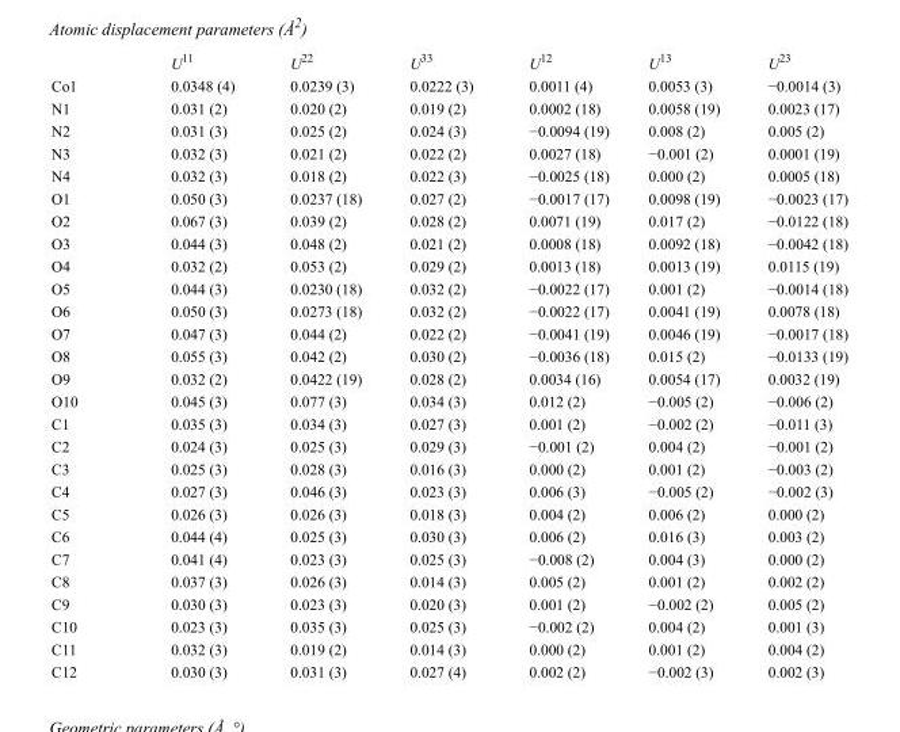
<table><thead><tr><td></td><td>U<sup>11</sup></td><td>U<sup>22</sup></td><td>U<sup>33</sup></td><td>U<sup>12</sup></td><td>U<sup>13</sup></td><td>U<sup>23</sup></td></tr></thead><tbody><tr><td>Co1</td><td>0.0348 (4)</td><td>0.0239 (3)</td><td>0.0222 (3)</td><td>0.0011 (4)</td><td>0.0053 (3)</td><td>−0.0014 (3)</td></tr><tr><td>N1</td><td>0.031 (2)</td><td>0.020 (2)</td><td>0.019 (2)</td><td>0.0002 (18)</td><td>0.0058 (19)</td><td>0.0023 (17)</td></tr><tr><td>N2</td><td>0.031 (3)</td><td>0.025 (2)</td><td>0.024 (3)</td><td>−0.0094 (19)</td><td>0.008 (2)</td><td>0.005 (2)</td></tr><tr><td>N3</td><td>0.032 (3)</td><td>0.021 (2)</td><td>0.022 (2)</td><td>0.0027 (18)</td><td>−0.001 (2)</td><td>0.0001 (19)</td></tr><tr><td>N4</td><td>0.032 (3)</td><td>0.018 (2)</td><td>0.022 (3)</td><td>−0.0025 (18)</td><td>0.000 (2)</td><td>0.0005 (18)</td></tr><tr><td>O1</td><td>0.050 (3)</td><td>0.0237 (18)</td><td>0.027 (2)</td><td>−0.0017 (17)</td><td>0.0098 (19)</td><td>−0.0023 (17)</td></tr><tr><td>O2</td><td>0.067 (3)</td><td>0.039 (2)</td><td>0.028 (2)</td><td>0.0071 (19)</td><td>0.017 (2)</td><td>−0.0122 (18)</td></tr><tr><td>O3</td><td>0.044 (3)</td><td>0.048 (2)</td><td>0.021 (2)</td><td>0.0008 (18)</td><td>0.0092 (18)</td><td>−0.0042 (18)</td></tr><tr><td>O4</td><td>0.032 (2)</td><td>0.053 (2)</td><td>0.029 (2)</td><td>0.0013 (18)</td><td>0.0013 (19)</td><td>0.0115 (19)</td></tr><tr><td>O5</td><td>0.044 (3)</td><td>0.0230 (18)</td><td>0.032 (2)</td><td>−0.0022 (17)</td><td>0.001 (2)</td><td>−0.0014 (18)</td></tr><tr><td>O6</td><td>0.050 (3)</td><td>0.0273 (18)</td><td>0.032 (2)</td><td>−0.0022 (17)</td><td>0.0041 (19)</td><td>0.0078 (18)</td></tr><tr><td>O7</td><td>0.047 (3)</td><td>0.044 (2)</td><td>0.022 (2)</td><td>−0.0041 (19)</td><td>0.0046 (19)</td><td>−0.0017 (18)</td></tr><tr><td>O8</td><td>0.055 (3)</td><td>0.042 (2)</td><td>0.030 (2)</td><td>−0.0036 (18)</td><td>0.015 (2)</td><td>−0.0133 (19)</td></tr><tr><td>O9</td><td>0.032 (2)</td><td>0.0422 (19)</td><td>0.028 (2)</td><td>0.0034 (16)</td><td>0.0054 (17)</td><td>0.0032 (19)</td></tr><tr><td>O10</td><td>0.045 (3)</td><td>0.077 (3)</td><td>0.034 (3)</td><td>0.012 (2)</td><td>−0.005 (2)</td><td>−0.006 (2)</td></tr><tr><td>C1</td><td>0.035 (3)</td><td>0.034 (3)</td><td>0.027 (3)</td><td>0.001 (2)</td><td>−0.002 (2)</td><td>−0.011 (3)</td></tr><tr><td>C2</td><td>0.024 (3)</td><td>0.025 (3)</td><td>0.029 (3)</td><td>−0.001 (2)</td><td>0.004 (2)</td><td>−0.001 (2)</td></tr><tr><td>C3</td><td>0.025 (3)</td><td>0.028 (3)</td><td>0.016 (3)</td><td>0.000 (2)</td><td>0.001 (2)</td><td>−0.003 (2)</td></tr><tr><td>C4</td><td>0.027 (3)</td><td>0.046 (3)</td><td>0.023 (3)</td><td>0.006 (3)</td><td>−0.005 (2)</td><td>−0.002 (3)</td></tr><tr><td>C5</td><td>0.026 (3)</td><td>0.026 (3)</td><td>0.018 (3)</td><td>0.004 (2)</td><td>0.006 (2)</td><td>0.000 (2)</td></tr><tr><td>C6</td><td>0.044 (4)</td><td>0.025 (3)</td><td>0.030 (3)</td><td>0.006 (2)</td><td>0.016 (3)</td><td>0.003 (2)</td></tr><tr><td>C7</td><td>0.041 (4)</td><td>0.023 (3)</td><td>0.025 (3)</td><td>−0.008 (2)</td><td>0.004 (3)</td><td>0.000 (2)</td></tr><tr><td>C8</td><td>0.037 (3)</td><td>0.026 (3)</td><td>0.014 (3)</td><td>0.005 (2)</td><td>0.001 (2)</td><td>0.002 (2)</td></tr><tr><td>C9</td><td>0.030 (3)</td><td>0.023 (3)</td><td>0.020 (3)</td><td>0.001 (2)</td><td>−0.002 (2)</td><td>0.005 (2)</td></tr><tr><td>C10</td><td>0.023 (3)</td><td>0.035 (3)</td><td>0.025 (3)</td><td>−0.002 (2)</td><td>0.004 (2)</td><td>0.001 (3)</td></tr><tr><td>C11</td><td>0.032 (3)</td><td>0.019 (2)</td><td>0.014 (3)</td><td>0.000 (2)</td><td>0.001 (2)</td><td>0.004 (2)</td></tr><tr><td>C12</td><td>0.030 (3)</td><td>0.031 (3)</td><td>0.027 (4)</td><td>0.002 (2)</td><td>−0.002 (3)</td><td>0.002 (3)</td></tr></tbody></table>